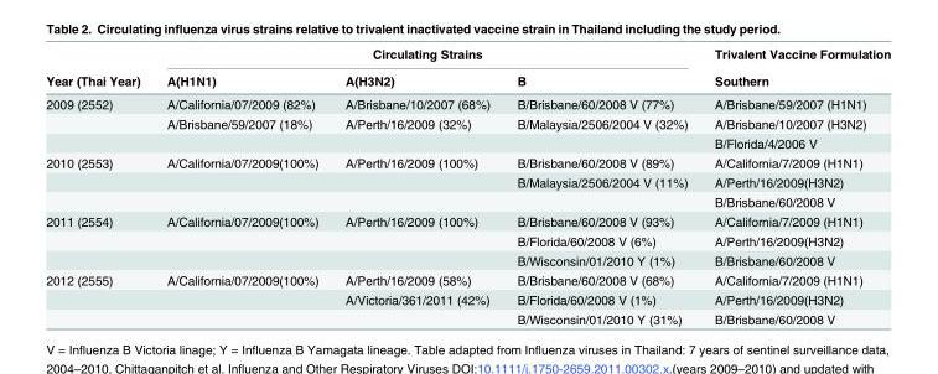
<table><thead><tr><td rowspan="2">Year (Thai Year)</td><td colspan="3">Circulating Strains</td><td rowspan="2">Trivalent Vaccine Formulation Southern</td></tr><tr><td>A(H1N1)</td><td>A(H3N2)</td><td>B</td></tr></thead><tbody><tr><td rowspan="3">2009 (2552)</td><td>A/California/07/2009 (82%)</td><td>A/Brisbane/10/2007 (68%)</td><td>B/Brisbane/60/2008 V (77%)</td><td>A/Brisbane/59/2007 (H1N1)</td></tr><tr><td>A/Brisbane/59/2007 (18%)</td><td>A/Perth/16/2009 (32%)</td><td>B/Malaysia/2506/2004 V (32%)</td><td>A/Brisbane/10/2007 (H3N2)</td></tr><tr><td></td><td></td><td></td><td>B/Florida/4/2006 V</td></tr><tr><td rowspan="3">2010 (2553)</td><td>A/California/07/2009(100%)</td><td>A/Perth/16/2009 (100%)</td><td>B/Brisbane/60/2008 V (89%)</td><td>A/California/7/2009 (H1N1)</td></tr><tr><td></td><td></td><td>B/Malaysia/2506/2004 V (11%)</td><td>A/Perth/16/2009(H3N2)</td></tr><tr><td></td><td></td><td></td><td>B/Brisbane/60/2008 V</td></tr><tr><td rowspan="3">2011 (2554)</td><td>A/California/07/2009(100%)</td><td>A/Perth/16/2009 (100%)</td><td>B/Brisbane/60/2008 V (93%)</td><td>A/California/7/2009 (H1N1)</td></tr><tr><td></td><td></td><td>B/Florida/60/2008 V (6%)</td><td>A/Perth/16/2009(H3N2)</td></tr><tr><td></td><td></td><td>B/Wisconsin/01/2010 Y (1%)</td><td>B/Brisbane/60/2008 V</td></tr><tr><td rowspan="3">2012 (2555)</td><td>A/California/07/2009(100%)</td><td>A/Perth/16/2009 (58%)</td><td>B/Brisbane/60/2008 V (68%)</td><td>A/California/7/2009 (H1N1)</td></tr><tr><td></td><td>A/Victoria/361/2011 (42%)</td><td>B/Florida/60/2008 V (1%)</td><td>A/Perth/16/2009(H3N2)</td></tr><tr><td></td><td></td><td>B/Wisconsin/01/2010 Y (31%)</td><td>B/Brisbane/60/2008 V</td></tr></tbody></table>